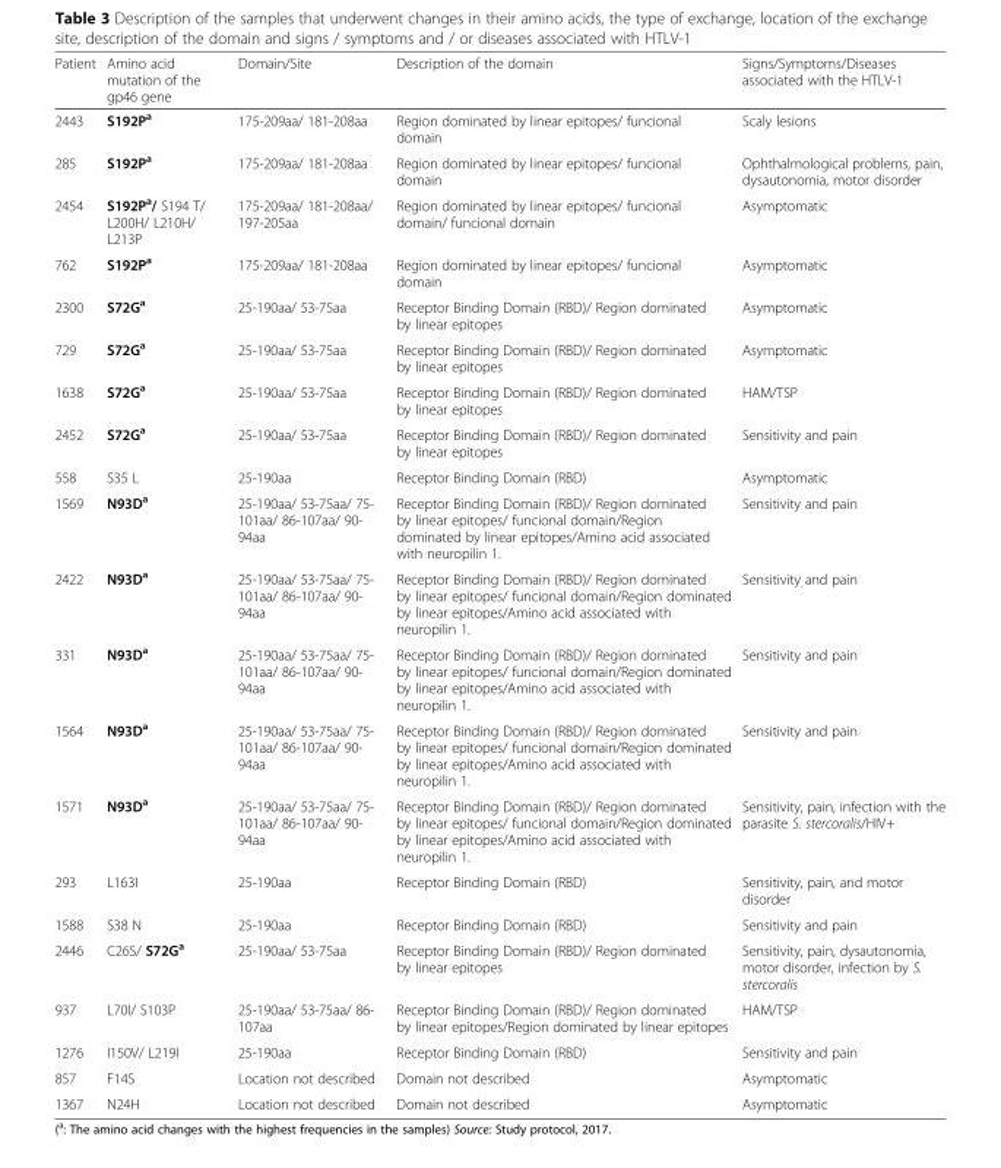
<table><thead><tr><td>Patient</td><td>Amino acid mutation of the gp46 gene</td><td>Domain/Site</td><td>Description of the domain</td><td>Signs/Symptoms/Diseases associated with the HTLV-1</td></tr></thead><tbody><tr><td>2443</td><td>S192P<sup>a</sup></td><td>175-209aa/ 181-208aa</td><td>Region dominated by linear epitopes/ funcional domain</td><td>Scaly lesions</td></tr><tr><td>285</td><td>S192P<sup>a</sup></td><td>175-209aa/ 181-208aa</td><td>Region dominated by linear epitopes/ funcional domain</td><td>Ophthalmological problems, pain, dysautonomia, motor disorder</td></tr><tr><td>2454</td><td>S192P<sup>a</sup>/ S194 T/ L200H/ L210H/ L213P</td><td>175-209aa/ 181-208aa/ 197-205aa</td><td>Region dominated by linear epitopes/ funcional domain/ funcional domain</td><td>Asymptomatic</td></tr><tr><td>762</td><td>S192P<sup>a</sup></td><td>175-209aa/ 181-208aa</td><td>Region dominated by linear epitopes/ funcional domain</td><td>Asymptomatic</td></tr><tr><td>2300</td><td>S72G<sup>a</sup></td><td>25-190aa/ 53-75aa</td><td>Receptor Binding Domain (RBD)/ Region dominated by linear epitopes</td><td>Asymptomatic</td></tr><tr><td>729</td><td>S72G<sup>a</sup></td><td>25-190aa/ 53-75aa</td><td>Receptor Binding Domain (RBD)/ Region dominated by linear epitopes</td><td>Asymptomatic</td></tr><tr><td>1638</td><td>S72G<sup>a</sup></td><td>25-190aa/ 53-75aa</td><td>Receptor Binding Domain (RBD)/ Region dominated by linear epitopes</td><td>HAM/TSP</td></tr><tr><td>2452</td><td>S72G<sup>a</sup></td><td>25-190aa/ 53-75aa</td><td>Receptor Binding Domain (RBD)/ Region dominated by linear epitopes</td><td>Sensitivity and pain</td></tr><tr><td>558</td><td>S35 L</td><td>25-190aa</td><td>Receptor Binding Domain (RBD)</td><td>Asymptomatic</td></tr><tr><td>1569</td><td>N93D<sup>a</sup></td><td>25-190aa/ 53-75aa/ 75- 101aa/ 86-107aa/ 90- 94aa</td><td>Receptor Binding Domain (RBD)/ Region dominated by linear epitopes/ funcional domain/Region dominated by linear epitopes/Amino acid associated with neuropilin 1.</td><td>Sensitivity and pain</td></tr><tr><td>2422</td><td>N93D<sup>a</sup></td><td>25-190aa/ 53-75aa/ 75- 101aa/ 86-107aa/ 90- 94aa</td><td>Receptor Binding Domain (RBD)/ Region dominated by linear epitopes/ funcional domain/Region dominated by linear epitopes/Amino acid associated with neuropilin 1.</td><td>Sensitivity and pain</td></tr><tr><td>331</td><td>N93D<sup>a</sup></td><td>25-190aa/ 53-75aa/ 75- 101aa/ 86-107aa/ 90- 94aa</td><td>Receptor Binding Domain (RBD)/ Region dominated by linear epitopes/ funcional domain/Region dominated by linear epitopes/Amino acid associated with neuropilin 1.</td><td>Sensitivity and pain</td></tr><tr><td>1564</td><td>N93D<sup>a</sup></td><td>25-190aa/ 53-75aa/ 75- 101aa/ 86-107aa/ 90- 94aa</td><td>Receptor Binding Domain (RBD)/ Region dominated by linear epitopes/ funcional domain/Region dominated by linear epitopes/Amino acid associated with neuropilin 1.</td><td>Sensitivity and pain</td></tr><tr><td>1571</td><td>N93D<sup>a</sup></td><td>25-190aa/ 53-75aa/ 75- 101aa/ 86-107aa/ 90- 94aa</td><td>Receptor Binding Domain (RBD)/ Region dominated by linear epitopes/ funcional domain/Region dominated by linear epitopes/Amino acid associated with neuropilin 1.</td><td>Sensitivity, pain, infection with the parasite S. stercoralis/HIV+</td></tr><tr><td>293</td><td>L163I</td><td>25-190aa</td><td>Receptor Binding Domain (RBD)</td><td>Sensitivity, pain, and motor disorder</td></tr><tr><td>1588</td><td>S38 N</td><td>25-190aa</td><td>Receptor Binding Domain (RBD)</td><td>Sensitivity and pain</td></tr><tr><td>2446</td><td>C26S/ S72G<sup>a</sup></td><td>25-190aa/ 53-75aa</td><td>Receptor Binding Domain (RBD)/ Region dominated by linear epitopes</td><td>Sensitivity, pain, dysautonomia, motor disorder, infection by S. stercoralis</td></tr><tr><td>937</td><td>L70I/ S103P</td><td>25-190aa/ 53-75aa/ 86- 107aa</td><td>Receptor Binding Domain (RBD)/ Region dominated by linear epitopes/Region dominated by linear epitopes</td><td>HAM/TSP</td></tr><tr><td>1276</td><td>I150V/ L219I</td><td>25-190aa</td><td>Receptor Binding Domain (RBD)</td><td>Sensitivity and pain</td></tr><tr><td>857</td><td>F14S</td><td>Location not described</td><td>Domain not described</td><td>Asymptomatic</td></tr><tr><td>1367</td><td>N24H</td><td>Location not described</td><td>Domain not described</td><td>Asymptomatic</td></tr></tbody></table>